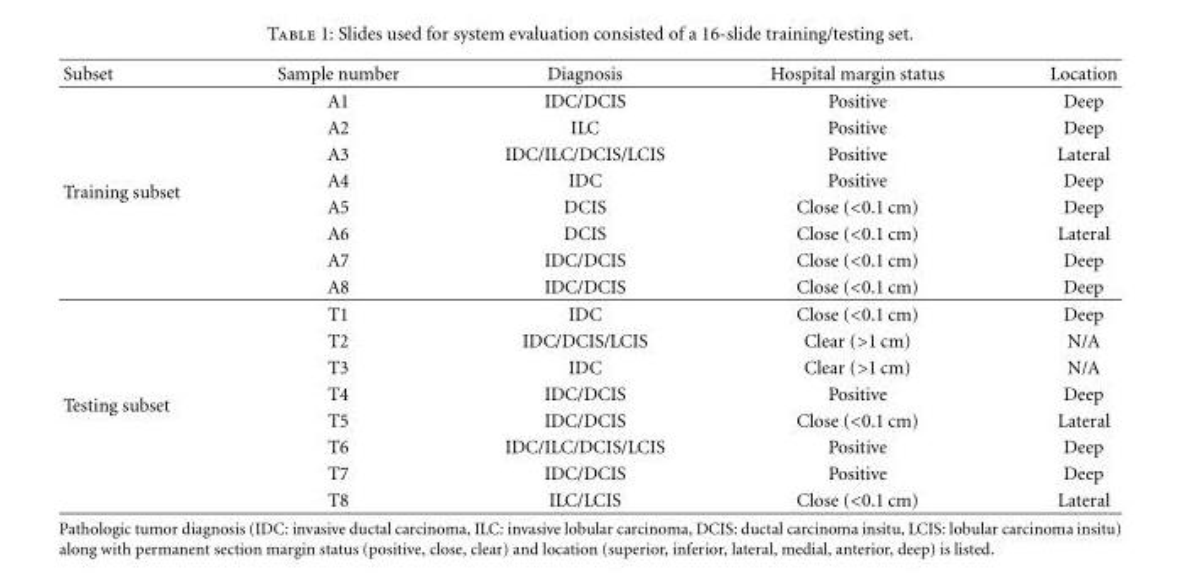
<table><thead><tr><td>Subset</td><td>Sample number</td><td>Diagnosis</td><td>Hospital margin status</td><td>Location</td></tr></thead><tbody><tr><td rowspan="8">Training subset</td><td>A1</td><td>IDC/DCIS</td><td>Positive</td><td>Deep</td></tr><tr><td>A2</td><td>ILC</td><td>Positive</td><td>Deep</td></tr><tr><td>A3</td><td>IDC/ILC/DCIS/LCIS</td><td>Positive</td><td>Lateral</td></tr><tr><td>A4</td><td>IDC</td><td>Positive</td><td>Deep</td></tr><tr><td>A5</td><td>DCIS</td><td>Close (&lt;0.1 cm)</td><td>Deep</td></tr><tr><td>A6</td><td>DCIS</td><td>Close (&lt;0.1 cm)</td><td>Lateral</td></tr><tr><td>A7</td><td>IDC/DCIS</td><td>Close (&lt;0.1 cm)</td><td>Deep</td></tr><tr><td>A8</td><td>IDC/DCIS</td><td>Close (&lt;0.1 cm)</td><td>Deep</td></tr><tr><td rowspan="8">Testing subset</td><td>T1</td><td>IDC</td><td>Close (&lt;0.1 cm)</td><td>Deep</td></tr><tr><td>T2</td><td>IDC/DCIS/LCIS</td><td>Clear (&gt;1 cm)</td><td>N/A</td></tr><tr><td>T3</td><td>IDC</td><td>Clear (&gt;1 cm)</td><td>N/A</td></tr><tr><td>T4</td><td>IDC/DCIS</td><td>Positive</td><td>Deep</td></tr><tr><td>T5</td><td>IDC/DCIS</td><td>Close (&lt;0.1 cm)</td><td>Lateral</td></tr><tr><td>T6</td><td>IDC/ILC/DCIS/LCIS</td><td>Positive</td><td>Deep</td></tr><tr><td>T7</td><td>IDC/DCIS</td><td>Positive</td><td>Deep</td></tr><tr><td>T8</td><td>ILC/LCIS</td><td>Close (&lt;0.1 cm)</td><td>Lateral</td></tr></tbody></table>